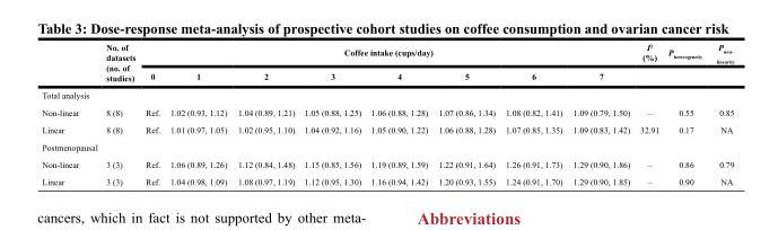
<table><thead><tr><td rowspan="2"></td><td rowspan="2">No. of datasets (no. of studies)</td><td colspan="8">Coffee intake (cups/day)</td><td rowspan="2">I<sup>2</sup> (%)</td><td rowspan="2">P<sub>heterogeneity</sub></td><td rowspan="2">P<sub>non- linearity</sub></td></tr><tr><td>0</td><td>1</td><td>2</td><td>3</td><td>4</td><td>5</td><td>6</td><td>7</td></tr></thead><tbody><tr><td colspan="13">Total analysis</td></tr><tr><td>Non-linear</td><td>8 (8)</td><td>Ref.</td><td>1.02 (0.93, 1.12)</td><td>1.04 (0.89, 1.21)</td><td>1.05 (0.88, 1.25)</td><td>1.06 (0.88, 1.28)</td><td>1.07 (0.86, 1.34)</td><td>1.08 (0.82, 1.41)</td><td>1.09 (0.79, 1.50)</td><td>–</td><td>0.55</td><td>0.85</td></tr><tr><td>Linear</td><td>8 (8)</td><td>Ref.</td><td>1.01 (0.97, 1.05)</td><td>1.02 (0.95, 1.10)</td><td>1.04 (0.92, 1.16)</td><td>1.05 (0.90, 1.22)</td><td>1.06 (0.88, 1.28)</td><td>1.07 (0.85, 1.35)</td><td>1.09 (0.83, 1.42)</td><td>32.91</td><td>0.17</td><td>NA</td></tr><tr><td colspan="13">Postmenopausal</td></tr><tr><td>Non-linear</td><td>3 (3)</td><td>Ref.</td><td>1.06 (0.89, 1.26)</td><td>1.12 (0.84, 1.48)</td><td>1.15 (0.85, 1.56)</td><td>1.19 (0.89, 1.59)</td><td>1.22 (0.91, 1.64)</td><td>1.26 (0.91, 1.73)</td><td>1.29 (0.90, 1.86)</td><td>–</td><td>0.86</td><td>0.79</td></tr><tr><td>Linear</td><td>3 (3)</td><td>Ref.</td><td>1.04 (0.98, 1.09)</td><td>1.08 (0.97, 1.19)</td><td>1.12 (0.95, 1.30)</td><td>1.16 (0.94, 1.42)</td><td>1.20 (0.93, 1.55)</td><td>1.24 (0.91, 1.70)</td><td>1.29 (0.90, 1.85)</td><td>–</td><td>0.90</td><td>NA</td></tr></tbody></table>